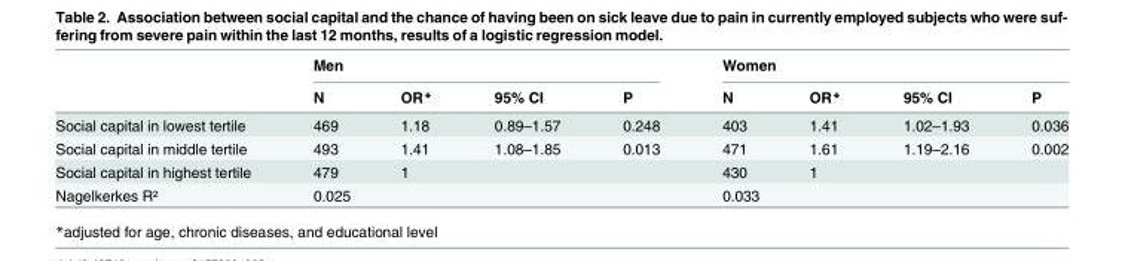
<table><thead><tr><td rowspan="2"></td><td colspan="4">Men</td><td colspan="4">Women</td></tr><tr><td>N</td><td>OR*</td><td>95% CI</td><td>P</td><td>N</td><td>OR*</td><td>95% CI</td><td>P</td></tr></thead><tbody><tr><td>Social capital in lowest tertile</td><td>469</td><td>1.18</td><td>0.89–1.57</td><td>0.248</td><td>403</td><td>1.41</td><td>1.02–1.93</td><td>0.036</td></tr><tr><td>Social capital in middle tertile</td><td>493</td><td>1.41</td><td>1.08–1.85</td><td>0.013</td><td>471</td><td>1.61</td><td>1.19–2.16</td><td>0.002</td></tr><tr><td>Social capital in highest tertile</td><td>479</td><td>1</td><td></td><td></td><td>430</td><td>1</td><td></td><td></td></tr><tr><td>Nagelkerkes R²</td><td colspan="4">0.025</td><td colspan="4">0.033</td></tr></tbody></table>